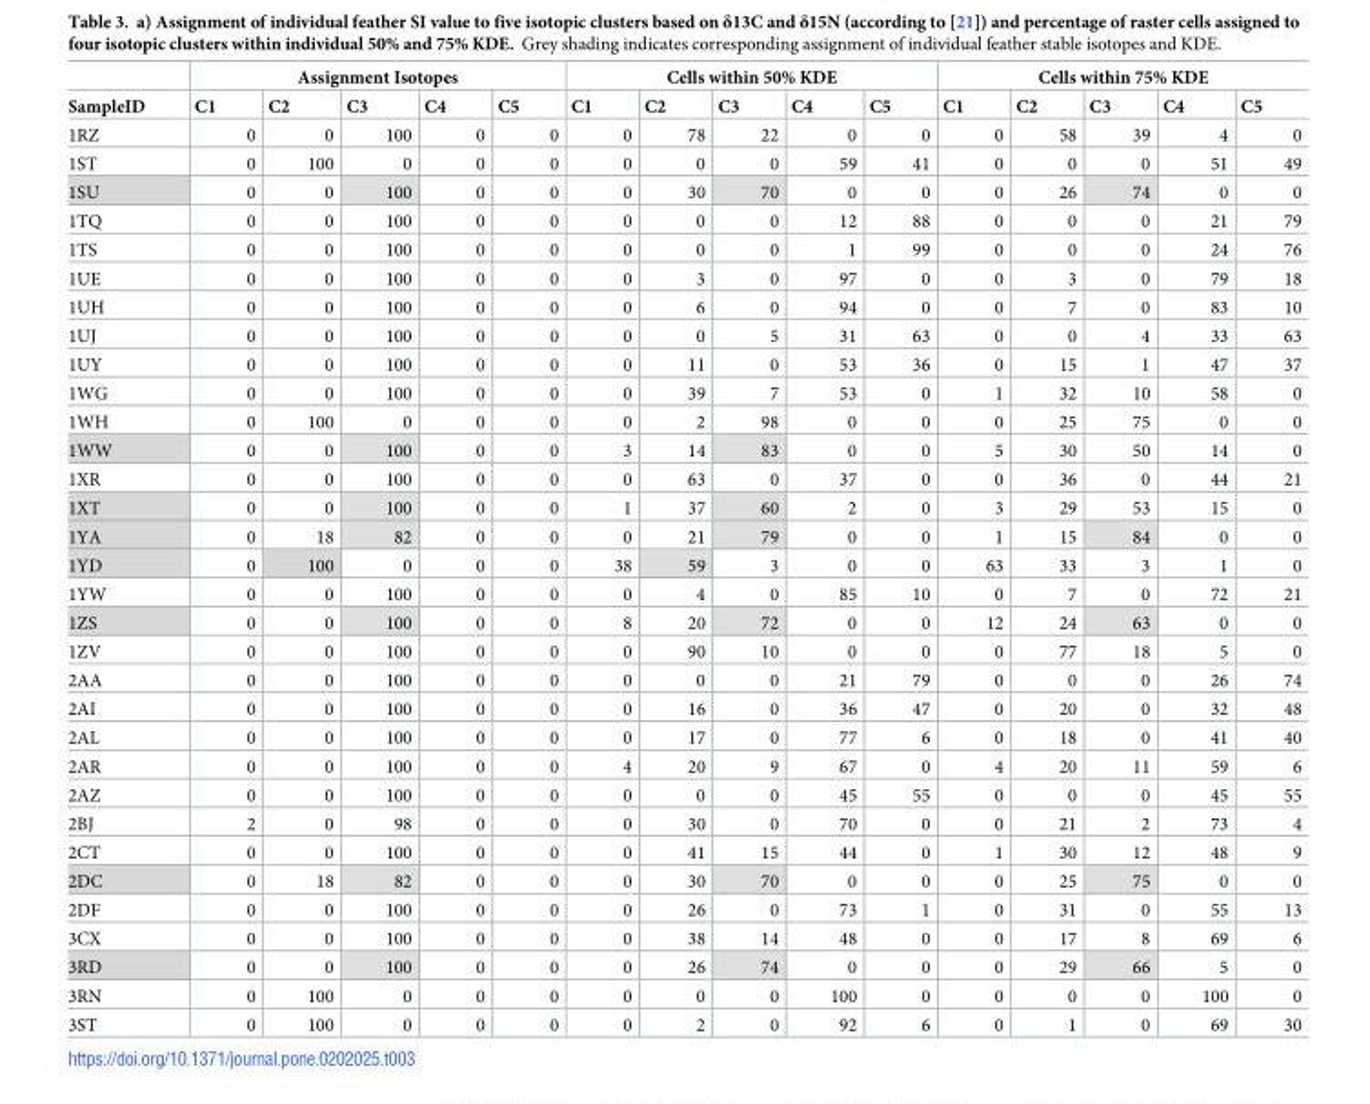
<table><thead><tr><td rowspan="2">SampleID</td><td colspan="5">Assignment Isotopes</td><td colspan="5">Cells within 50% KDE</td><td colspan="5">Cells within 75% KDE</td></tr><tr><td>C1</td><td>C2</td><td>C3</td><td>C4</td><td>C5</td><td>C1</td><td>C2</td><td>C3</td><td>C4</td><td>C5</td><td>C1</td><td>C2</td><td>C3</td><td>C4</td><td>C5</td></tr></thead><tbody><tr><td>1RZ</td><td>0</td><td>0</td><td>100</td><td>0</td><td>0</td><td>0</td><td>78</td><td>22</td><td>0</td><td>0</td><td>0</td><td>58</td><td>39</td><td>4</td><td>0</td></tr><tr><td>1ST</td><td>0</td><td>100</td><td>0</td><td>0</td><td>0</td><td>0</td><td>0</td><td>0</td><td>59</td><td>41</td><td>0</td><td>0</td><td>0</td><td>51</td><td>49</td></tr><tr><td>1SU</td><td>0</td><td>0</td><td>100</td><td>0</td><td>0</td><td>0</td><td>30</td><td>70</td><td>0</td><td>0</td><td>0</td><td>26</td><td>74</td><td>0</td><td>0</td></tr><tr><td>1TQ</td><td>0</td><td>0</td><td>100</td><td>0</td><td>0</td><td>0</td><td>0</td><td>0</td><td>12</td><td>88</td><td>0</td><td>0</td><td>0</td><td>21</td><td>79</td></tr><tr><td>1TS</td><td>0</td><td>0</td><td>100</td><td>0</td><td>0</td><td>0</td><td>0</td><td>0</td><td>1</td><td>99</td><td>0</td><td>0</td><td>0</td><td>24</td><td>76</td></tr><tr><td>1UE</td><td>0</td><td>0</td><td>100</td><td>0</td><td>0</td><td>0</td><td>3</td><td>0</td><td>97</td><td>0</td><td>0</td><td>3</td><td>0</td><td>79</td><td>18</td></tr><tr><td>1UH</td><td>0</td><td>0</td><td>100</td><td>0</td><td>0</td><td>0</td><td>6</td><td>0</td><td>94</td><td>0</td><td>0</td><td>7</td><td>0</td><td>83</td><td>10</td></tr><tr><td>1UJ</td><td>0</td><td>0</td><td>100</td><td>0</td><td>0</td><td>0</td><td>0</td><td>5</td><td>31</td><td>63</td><td>0</td><td>0</td><td>4</td><td>33</td><td>63</td></tr><tr><td>1UY</td><td>0</td><td>0</td><td>100</td><td>0</td><td>0</td><td>0</td><td>11</td><td>0</td><td>53</td><td>36</td><td>0</td><td>15</td><td>1</td><td>47</td><td>37</td></tr><tr><td>1WG</td><td>0</td><td>0</td><td>100</td><td>0</td><td>0</td><td>0</td><td>39</td><td>7</td><td>53</td><td>0</td><td>1</td><td>32</td><td>10</td><td>58</td><td>0</td></tr><tr><td>1WH</td><td>0</td><td>100</td><td>0</td><td>0</td><td>0</td><td>0</td><td>2</td><td>98</td><td>0</td><td>0</td><td>0</td><td>25</td><td>75</td><td>0</td><td>0</td></tr><tr><td>1WW</td><td>0</td><td>0</td><td>100</td><td>0</td><td>0</td><td>3</td><td>14</td><td>83</td><td>0</td><td>0</td><td>5</td><td>30</td><td>50</td><td>14</td><td>0</td></tr><tr><td>1XR</td><td>0</td><td>0</td><td>100</td><td>0</td><td>0</td><td>0</td><td>63</td><td>0</td><td>37</td><td>0</td><td>0</td><td>36</td><td>0</td><td>44</td><td>21</td></tr><tr><td>1XT</td><td>0</td><td>0</td><td>100</td><td>0</td><td>0</td><td>1</td><td>37</td><td>60</td><td>2</td><td>0</td><td>3</td><td>29</td><td>53</td><td>15</td><td>0</td></tr><tr><td>1YA</td><td>0</td><td>18</td><td>82</td><td>0</td><td>0</td><td>0</td><td>21</td><td>79</td><td>0</td><td>0</td><td>1</td><td>15</td><td>84</td><td>0</td><td>0</td></tr><tr><td>1YD</td><td>0</td><td>100</td><td>0</td><td>0</td><td>0</td><td>38</td><td>59</td><td>3</td><td>0</td><td>0</td><td>63</td><td>33</td><td>3</td><td>1</td><td>0</td></tr><tr><td>1YW</td><td>0</td><td>0</td><td>100</td><td>0</td><td>0</td><td>0</td><td>4</td><td>0</td><td>85</td><td>10</td><td>0</td><td>7</td><td>0</td><td>72</td><td>21</td></tr><tr><td>1ZS</td><td>0</td><td>0</td><td>100</td><td>0</td><td>0</td><td>8</td><td>20</td><td>72</td><td>0</td><td>0</td><td>12</td><td>24</td><td>63</td><td>0</td><td>0</td></tr><tr><td>1ZV</td><td>0</td><td>0</td><td>100</td><td>0</td><td>0</td><td>0</td><td>90</td><td>10</td><td>0</td><td>0</td><td>0</td><td>77</td><td>18</td><td>5</td><td>0</td></tr><tr><td>2AA</td><td>0</td><td>0</td><td>100</td><td>0</td><td>0</td><td>0</td><td>0</td><td>0</td><td>21</td><td>79</td><td>0</td><td>0</td><td>0</td><td>26</td><td>74</td></tr><tr><td>2AI</td><td>0</td><td>0</td><td>100</td><td>0</td><td>0</td><td>0</td><td>16</td><td>0</td><td>36</td><td>47</td><td>0</td><td>20</td><td>0</td><td>32</td><td>48</td></tr><tr><td>2AL</td><td>0</td><td>0</td><td>100</td><td>0</td><td>0</td><td>0</td><td>17</td><td>0</td><td>77</td><td>6</td><td>0</td><td>18</td><td>0</td><td>41</td><td>40</td></tr><tr><td>2AR</td><td>0</td><td>0</td><td>100</td><td>0</td><td>0</td><td>4</td><td>20</td><td>9</td><td>67</td><td>0</td><td>4</td><td>20</td><td>11</td><td>59</td><td>6</td></tr><tr><td>2AZ</td><td>0</td><td>0</td><td>100</td><td>0</td><td>0</td><td>0</td><td>0</td><td>0</td><td>45</td><td>55</td><td>0</td><td>0</td><td>0</td><td>45</td><td>55</td></tr><tr><td>2BJ</td><td>2</td><td>0</td><td>98</td><td>0</td><td>0</td><td>0</td><td>30</td><td>0</td><td>70</td><td>0</td><td>0</td><td>21</td><td>2</td><td>73</td><td>4</td></tr><tr><td>2CT</td><td>0</td><td>0</td><td>100</td><td>0</td><td>0</td><td>0</td><td>41</td><td>15</td><td>44</td><td>0</td><td>1</td><td>30</td><td>12</td><td>48</td><td>9</td></tr><tr><td>2DC</td><td>0</td><td>18</td><td>82</td><td>0</td><td>0</td><td>0</td><td>30</td><td>70</td><td>0</td><td>0</td><td>0</td><td>25</td><td>75</td><td>0</td><td>0</td></tr><tr><td>2DF</td><td>0</td><td>0</td><td>100</td><td>0</td><td>0</td><td>0</td><td>26</td><td>0</td><td>73</td><td>1</td><td>0</td><td>31</td><td>0</td><td>55</td><td>13</td></tr><tr><td>3CX</td><td>0</td><td>0</td><td>100</td><td>0</td><td>0</td><td>0</td><td>38</td><td>14</td><td>48</td><td>0</td><td>0</td><td>17</td><td>8</td><td>69</td><td>6</td></tr><tr><td>3RD</td><td>0</td><td>0</td><td>100</td><td>0</td><td>0</td><td>0</td><td>26</td><td>74</td><td>0</td><td>0</td><td>0</td><td>29</td><td>66</td><td>5</td><td>0</td></tr><tr><td>3RN</td><td>0</td><td>100</td><td>0</td><td>0</td><td>0</td><td>0</td><td>0</td><td>0</td><td>100</td><td>0</td><td>0</td><td>0</td><td>0</td><td>100</td><td>0</td></tr><tr><td>3ST</td><td>0</td><td>100</td><td>0</td><td>0</td><td>0</td><td>0</td><td>2</td><td>0</td><td>92</td><td>6</td><td>0</td><td>1</td><td>0</td><td>69</td><td>30</td></tr></tbody></table>